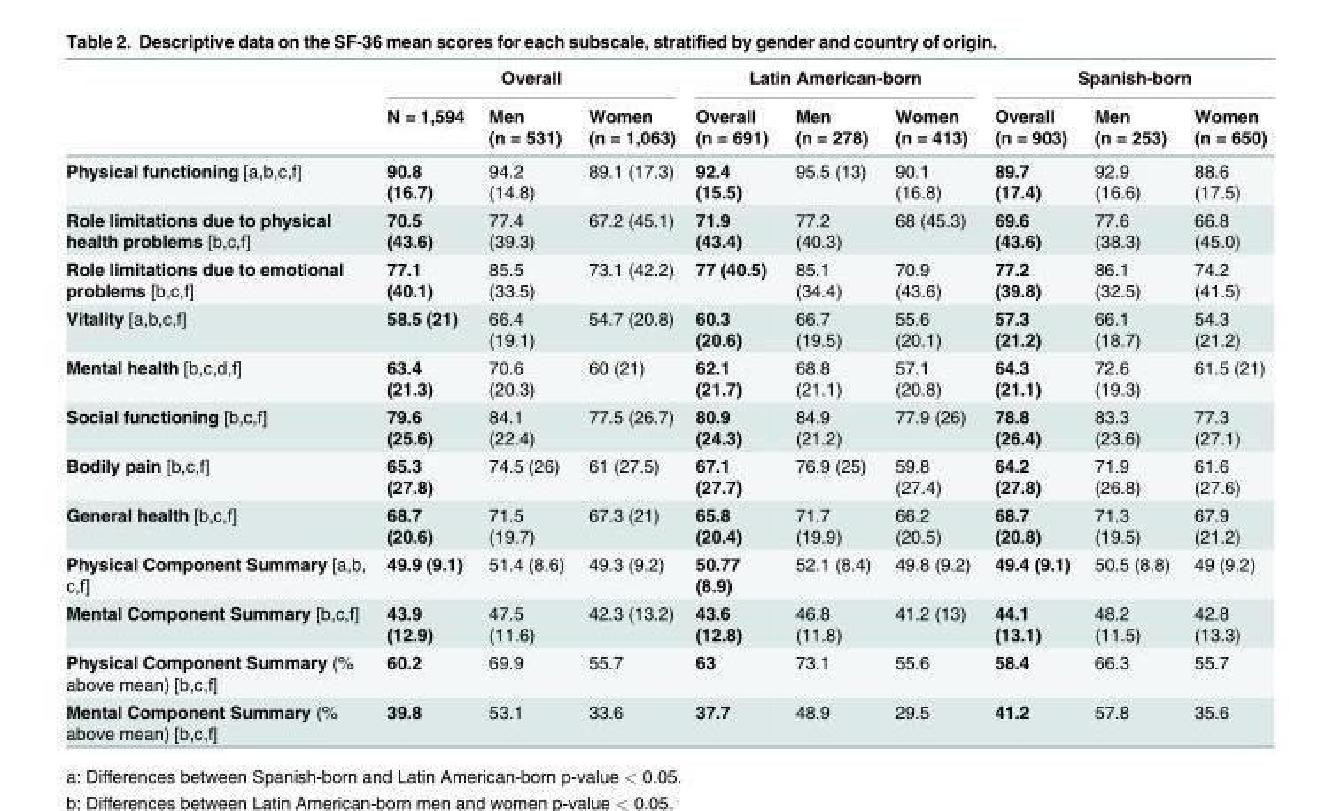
<table><thead><tr><td rowspan="3"></td><td colspan="3">Overall</td><td colspan="3">Latin American-born</td><td colspan="3">Spanish-born</td></tr><tr><td rowspan="2">N = 1,594</td><td rowspan="2">Men (n = 531)</td><td rowspan="2">Women (n = 1,063)</td><td rowspan="2">Overall (n = 691)</td><td rowspan="2">Men (n = 278)</td><td rowspan="2">Women (n = 413)</td><td rowspan="2">Overall (n = 903)</td><td rowspan="2">Men (n = 253)</td><td rowspan="2">Women (n = 650)</td></tr><tr></tr></thead><tbody><tr><td>Physical functioning [a,b,c,f]</td><td>90.8 (16.7)</td><td>94.2 (14.8)</td><td>89.1 (17.3)</td><td>92.4 (15.5)</td><td>95.5 (13)</td><td>90.1 (16.8)</td><td>89.7 (17.4)</td><td>92.9 (16.6)</td><td>88.6 (17.5)</td></tr><tr><td>Role limitations due to physical health problems [b,c,f]</td><td>70.5 (43.6)</td><td>77.4 (39.3)</td><td>67.2 (45.1)</td><td>71.9 (43.4)</td><td>77.2 (40.3)</td><td>68 (45.3)</td><td>69.6 (43.6)</td><td>77.6 (38.3)</td><td>66.8 (45.0)</td></tr><tr><td>Role limitations due to emotional problems [b,c,f]</td><td>77.1 (40.1)</td><td>85.5 (33.5)</td><td>73.1 (42.2)</td><td>77 (40.5)</td><td>85.1 (34.4)</td><td>70.9 (43.6)</td><td>77.2 (39.8)</td><td>86.1 (32.5)</td><td>74.2 (41.5)</td></tr><tr><td>Vitality [a,b,c,f]</td><td>58.5 (21)</td><td>66.4 (19.1)</td><td>54.7 (20.8)</td><td>60.3 (20.6)</td><td>66.7 (19.5)</td><td>55.6 (20.1)</td><td>57.3 (21.2)</td><td>66.1 (18.7)</td><td>54.3 (21.2)</td></tr><tr><td>Mental health [b,c,d,f]</td><td>63.4 (21.3)</td><td>70.6 (20.3)</td><td>60 (21)</td><td>62.1 (21.7)</td><td>68.8 (21.1)</td><td>57.1 (20.8)</td><td>64.3 (21.1)</td><td>72.6 (19.3)</td><td>61.5 (21)</td></tr><tr><td>Social functioning [b,c,f]</td><td>79.6 (25.6)</td><td>84.1 (22.4)</td><td>77.5 (26.7)</td><td>80.9 (24.3)</td><td>84.9 (21.2)</td><td>77.9 (26)</td><td>78.8 (26.4)</td><td>83.3 (23.6)</td><td>77.3 (27.1)</td></tr><tr><td>Bodily pain [b,c,f]</td><td>65.3 (27.8)</td><td>74.5 (26)</td><td>61 (27.5)</td><td>67.1 (27.7)</td><td>76.9 (25)</td><td>59.8 (27.4)</td><td>64.2 (27.8)</td><td>71.9 (26.8)</td><td>61.6 (27.6)</td></tr><tr><td>General health [b,c,f]</td><td>68.7 (20.6)</td><td>71.5 (19.7)</td><td>67.3 (21)</td><td>65.8 (20.4)</td><td>71.7 (19.9)</td><td>66.2 (20.5)</td><td>68.7 (20.8)</td><td>71.3 (19.5)</td><td>67.9 (21.2)</td></tr><tr><td>Physical Component Summary [a,b, c,f]</td><td>49.9 (9.1)</td><td>51.4 (8.6)</td><td>49.3 (9.2)</td><td>50.77 (8.9)</td><td>52.1 (8.4)</td><td>49.8 (9.2)</td><td>49.4 (9.1)</td><td>50.5 (8.8)</td><td>49 (9.2)</td></tr><tr><td>Mental Component Summary [b,c,f]</td><td>43.9 (12.9)</td><td>47.5 (11.6)</td><td>42.3 (13.2)</td><td>43.6 (12.8)</td><td>46.8 (11.8)</td><td>41.2 (13)</td><td>44.1 (13.1)</td><td>48.2 (11.5)</td><td>42.8 (13.3)</td></tr><tr><td>Physical Component Summary (% above mean) [b,c,f]</td><td>60.2</td><td>69.9</td><td>55.7</td><td>63</td><td>73.1</td><td>55.6</td><td>58.4</td><td>66.3</td><td>55.7</td></tr><tr><td>Mental Component Summary (% above mean) [b,c,f]</td><td>39.8</td><td>53.1</td><td>33.6</td><td>37.7</td><td>48.9</td><td>29.5</td><td>41.2</td><td>57.8</td><td>35.6</td></tr></tbody></table>